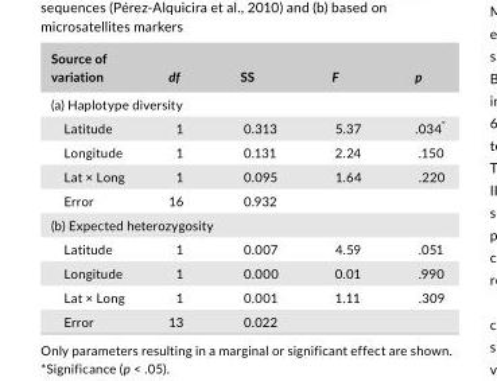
<table><thead><tr><td>Source of variation</td><td>df</td><td>SS</td><td>F</td><td>p</td></tr></thead><tbody><tr><td colspan="5">(a) Haplotype diversity</td></tr><tr><td>Latitude</td><td>1</td><td>0.313</td><td>5.37</td><td>.034*</td></tr><tr><td>Longitude</td><td>1</td><td>0.131</td><td>2.24</td><td>.150</td></tr><tr><td>Lat × Long</td><td>1</td><td>0.095</td><td>1.64</td><td>.220</td></tr><tr><td>Error</td><td>16</td><td>0.932</td><td></td><td></td></tr><tr><td colspan="5">(b) Expected heterozygosity</td></tr><tr><td>Latitude</td><td>1</td><td>0.007</td><td>4.59</td><td>.051</td></tr><tr><td>Longitude</td><td>1</td><td>0.000</td><td>0.01</td><td>.990</td></tr><tr><td>Lat × Long</td><td>1</td><td>0.001</td><td>1.11</td><td>.309</td></tr><tr><td>Error</td><td>13</td><td>0.022</td><td></td><td></td></tr></tbody></table>